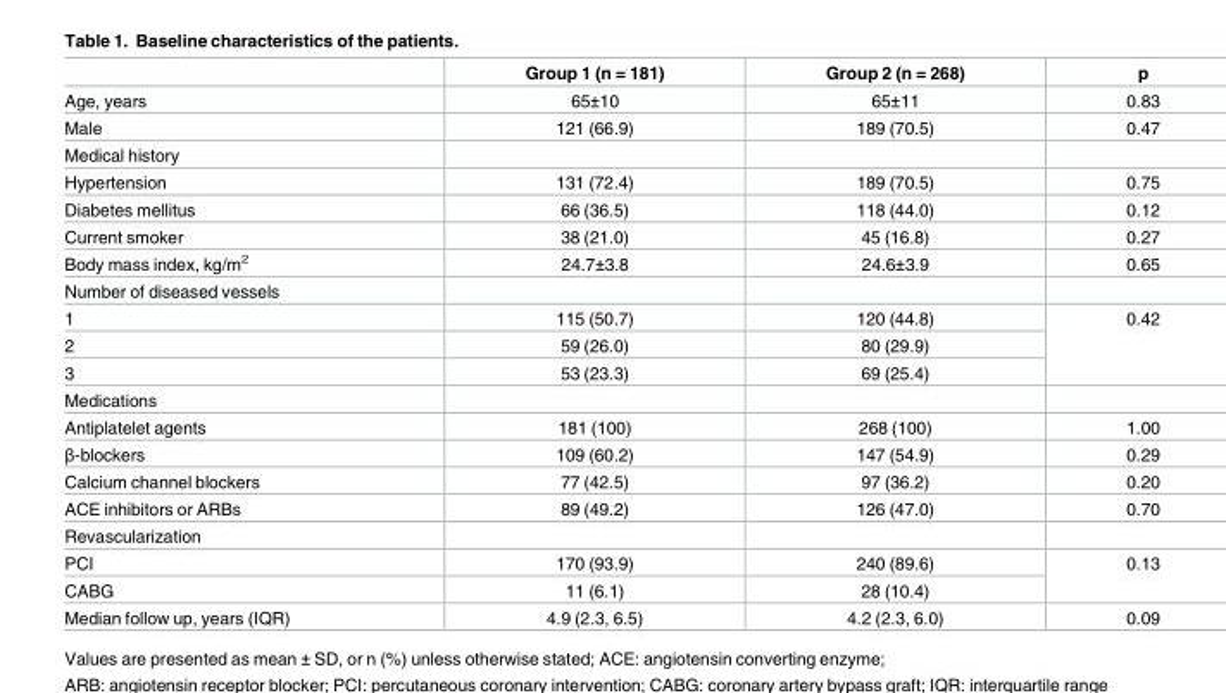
<table><thead><tr><td></td><td>Group 1 (n = 181)</td><td>Group 2 (n = 268)</td><td>p</td></tr></thead><tbody><tr><td>Age, years</td><td>65±10</td><td>65±11</td><td>0.83</td></tr><tr><td>Male</td><td>121 (66.9)</td><td>189 (70.5)</td><td>0.47</td></tr><tr><td colspan="4">Medical history</td></tr><tr><td>Hypertension</td><td>131 (72.4)</td><td>189 (70.5)</td><td>0.75</td></tr><tr><td>Diabetes mellitus</td><td>66 (36.5)</td><td>118 (44.0)</td><td>0.12</td></tr><tr><td>Current smoker</td><td>38 (21.0)</td><td>45 (16.8)</td><td>0.27</td></tr><tr><td>Body mass index, kg/m<sup>2</sup></td><td>24.7±3.8</td><td>24.6±3.9</td><td>0.65</td></tr><tr><td colspan="4">Number of diseased vessels</td></tr><tr><td>1</td><td>115 (50.7)</td><td>120 (44.8)</td><td rowspan="3">0.42</td></tr><tr><td>2</td><td>59 (26.0)</td><td>80 (29.9)</td></tr><tr><td>3</td><td>53 (23.3)</td><td>69 (25.4)</td></tr><tr><td colspan="4">Medications</td></tr><tr><td>Antiplatelet agents</td><td>181 (100)</td><td>268 (100)</td><td>1.00</td></tr><tr><td>β-blockers</td><td>109 (60.2)</td><td>147 (54.9)</td><td>0.29</td></tr><tr><td>Calcium channel blockers</td><td>77 (42.5)</td><td>97 (36.2)</td><td>0.20</td></tr><tr><td>ACE inhibitors or ARBs</td><td>89 (49.2)</td><td>126 (47.0)</td><td>0.70</td></tr><tr><td colspan="4">Revascularization</td></tr><tr><td>PCI</td><td>170 (93.9)</td><td>240 (89.6)</td><td rowspan="2">0.13</td></tr><tr><td>CABG</td><td>11 (6.1)</td><td>28 (10.4)</td></tr><tr><td>Median follow up, years (IQR)</td><td>4.9 (2.3, 6.5)</td><td>4.2 (2.3, 6.0)</td><td>0.09</td></tr></tbody></table>